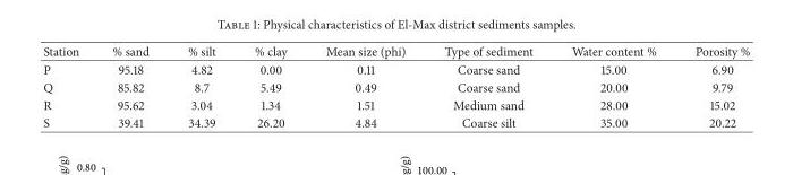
<table><thead><tr><td>Station</td><td>% sand</td><td>% silt</td><td>% clay</td><td>Mean size (phi)</td><td>Type of sediment</td><td>Water content %</td><td>Porosity %</td></tr></thead><tbody><tr><td>P</td><td>95.18</td><td>4.82</td><td>0.00</td><td>0.11</td><td>Coarse sand</td><td>15.00</td><td>6.90</td></tr><tr><td>Q</td><td>85.82</td><td>8.7</td><td>5.49</td><td>0.49</td><td>Coarse sand</td><td>20.00</td><td>9.79</td></tr><tr><td>R</td><td>95.62</td><td>3.04</td><td>1.34</td><td>1.51</td><td>Medium sand</td><td>28.00</td><td>15.02</td></tr><tr><td>S</td><td>39.41</td><td>34.39</td><td>26.20</td><td>4.84</td><td>Coarse silt</td><td>35.00</td><td>20.22</td></tr></tbody></table>